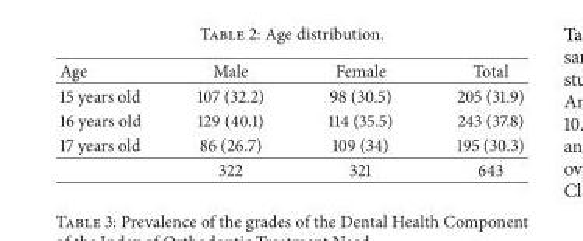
<table><thead><tr><td>Age</td><td>Male</td><td>Female</td><td>Total</td></tr></thead><tbody><tr><td>15 years old</td><td>107 (32.2)</td><td>98 (30.5)</td><td>205 (31.9)</td></tr><tr><td>16 years old</td><td>129 (40.1)</td><td>114 (35.5)</td><td>243 (37.8)</td></tr><tr><td rowspan="2">17 years old</td><td>86 (26.7)</td><td>109 (34)</td><td>195 (30.3)</td></tr><tr><td>322</td><td>321</td><td>643</td></tr></tbody></table>